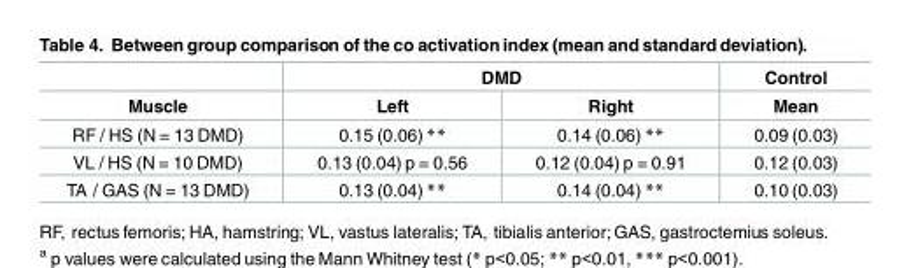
<table><thead><tr><td rowspan="2">Muscle</td><td colspan="2">DMD</td><td rowspan="2">Control Mean</td></tr><tr><td>Left</td><td>Right</td></tr></thead><tbody><tr><td>RF / HS (N = 13 DMD)</td><td>0.15 (0.06) **</td><td>0.14 (0.06) **</td><td>0.09 (0.03)</td></tr><tr><td>VL / HS (N = 10 DMD)</td><td>0.13 (0.04) p = 0.56</td><td>0.12 (0.04) p = 0.91</td><td>0.12 (0.03)</td></tr><tr><td>TA / GAS (N = 13 DMD)</td><td>0.13 (0.04) **</td><td>0.14 (0.04) **</td><td>0.10 (0.03)</td></tr></tbody></table>